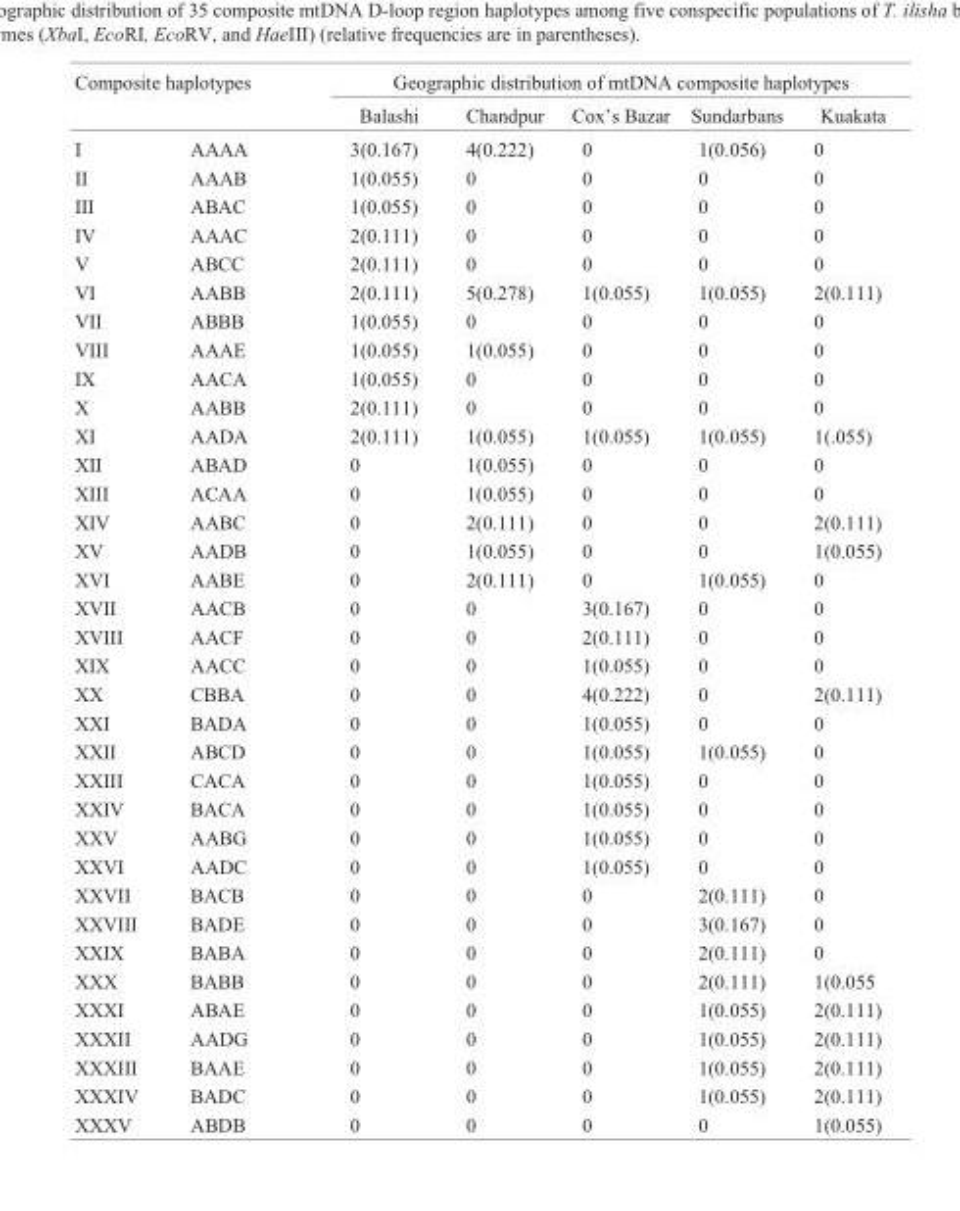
<table><thead><tr><td colspan="2">Composite haplotypes</td><td colspan="5">Geographic distribution of mtDNA composite haplotypes</td></tr><tr><td></td><td></td><td>Balashi</td><td>Chandpur</td><td>Cox’s Bazar</td><td>Sundarbans</td><td>Kuakata</td></tr></thead><tbody><tr><td>I</td><td>AAAA</td><td>3(0.167)</td><td>4(0.222)</td><td>0</td><td>1(0.056)</td><td>0</td></tr><tr><td>II</td><td>AAAB</td><td>1(0.055)</td><td>0</td><td>0</td><td>0</td><td>0</td></tr><tr><td>III</td><td>ABAC</td><td>1(0.055)</td><td>0</td><td>0</td><td>0</td><td>0</td></tr><tr><td>IV</td><td>AAAC</td><td>2(0.111)</td><td>0</td><td>0</td><td>0</td><td>0</td></tr><tr><td>V</td><td>ABCC</td><td>2(0.111)</td><td>0</td><td>0</td><td>0</td><td>0</td></tr><tr><td>VI</td><td>AABB</td><td>2(0.111)</td><td>5(0.278)</td><td>1(0.055)</td><td>1(0.055)</td><td>2(0.111)</td></tr><tr><td>VII</td><td>ABBB</td><td>1(0.055)</td><td>0</td><td>0</td><td>0</td><td>0</td></tr><tr><td>VIII</td><td>AAAE</td><td>1(0.055)</td><td>1(0.055)</td><td>0</td><td>0</td><td>0</td></tr><tr><td>IX</td><td>AACA</td><td>1(0.055)</td><td>0</td><td>0</td><td>0</td><td>0</td></tr><tr><td>X</td><td>AABB</td><td>2(0.111)</td><td>0</td><td>0</td><td>0</td><td>0</td></tr><tr><td>XI</td><td>AADA</td><td>2(0.111)</td><td>1(0.055)</td><td>1(0.055)</td><td>1(0.055)</td><td>1(.055)</td></tr><tr><td>XII</td><td>ABAD</td><td>0</td><td>1(0.055)</td><td>0</td><td>0</td><td>0</td></tr><tr><td>XIII</td><td>ACAA</td><td>0</td><td>1(0.055)</td><td>0</td><td>0</td><td>0</td></tr><tr><td>XIV</td><td>AABC</td><td>0</td><td>2(0.111)</td><td>0</td><td>0</td><td>2(0.111)</td></tr><tr><td>XV</td><td>AADB</td><td>0</td><td>1(0.055)</td><td>0</td><td>0</td><td>1(0.055)</td></tr><tr><td>XVI</td><td>AABE</td><td>0</td><td>2(0.111)</td><td>0</td><td>1(0.055)</td><td>0</td></tr><tr><td>XVII</td><td>AACB</td><td>0</td><td>0</td><td>3(0.167)</td><td>0</td><td>0</td></tr><tr><td>XVIII</td><td>AACF</td><td>0</td><td>0</td><td>2(0.111)</td><td>0</td><td>0</td></tr><tr><td>XIX</td><td>AACC</td><td>0</td><td>0</td><td>1(0.055)</td><td>0</td><td>0</td></tr><tr><td>XX</td><td>CBBA</td><td>0</td><td>0</td><td>4(0.222)</td><td>0</td><td>2(0.111)</td></tr><tr><td>XXI</td><td>BADA</td><td>0</td><td>0</td><td>1(0.055)</td><td>0</td><td>0</td></tr><tr><td>XXII</td><td>ABCD</td><td>0</td><td>0</td><td>1(0.055)</td><td>1(0.055)</td><td>0</td></tr><tr><td>XXIII</td><td>CACA</td><td>0</td><td>0</td><td>1(0.055)</td><td>0</td><td>0</td></tr><tr><td>XXIV</td><td>BACA</td><td>0</td><td>0</td><td>1(0.055)</td><td>0</td><td>0</td></tr><tr><td>XXV</td><td>AABG</td><td>0</td><td>0</td><td>1(0.055)</td><td>0</td><td>0</td></tr><tr><td>XXVI</td><td>AADC</td><td>0</td><td>0</td><td>1(0.055)</td><td>0</td><td>0</td></tr><tr><td>XXVII</td><td>BACB</td><td>0</td><td>0</td><td>0</td><td>2(0.111)</td><td>0</td></tr><tr><td>XXVIII</td><td>BADE</td><td>0</td><td>0</td><td>0</td><td>3(0.167)</td><td>0</td></tr><tr><td>XXIX</td><td>BABA</td><td>0</td><td>0</td><td>0</td><td>2(0.111)</td><td>0</td></tr><tr><td>XXX</td><td>BABB</td><td>0</td><td>0</td><td>0</td><td>2(0.111)</td><td>1(0.055</td></tr><tr><td>XXXI</td><td>ABAE</td><td>0</td><td>0</td><td>0</td><td>1(0.055)</td><td>2(0.111)</td></tr><tr><td>XXXII</td><td>AADG</td><td>0</td><td>0</td><td>0</td><td>1(0.055)</td><td>2(0.111)</td></tr><tr><td>XXXIII</td><td>BAAE</td><td>0</td><td>0</td><td>0</td><td>1(0.055)</td><td>2(0.111)</td></tr><tr><td>XXXIV</td><td>BADC</td><td>0</td><td>0</td><td>0</td><td>1(0.055)</td><td>2(0.111)</td></tr><tr><td>XXXV</td><td>ABDB</td><td>0</td><td>0</td><td>0</td><td>0</td><td>1(0.055)</td></tr></tbody></table>